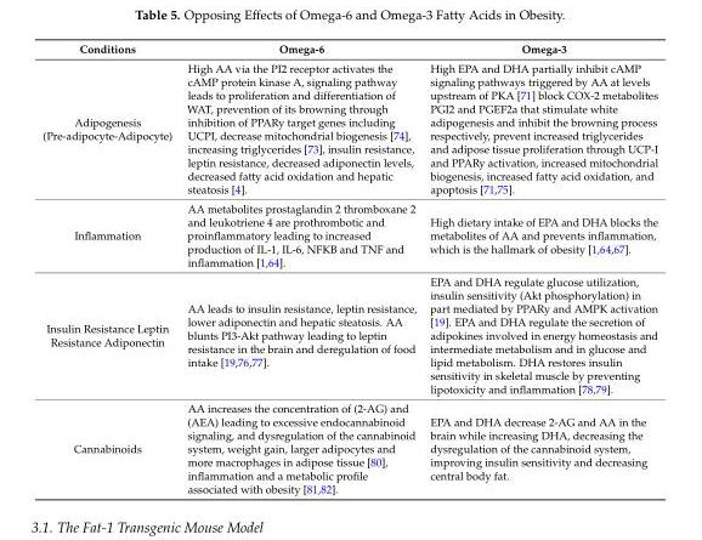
<table><thead><tr><td>Conditions</td><td>Omega-6</td><td>Omega-3</td></tr></thead><tbody><tr><td>Adipogenesis (Pre-adipocyte-Adipocyte)</td><td>High AA via the PI2 receptor activates the cAMP protein kinase A, signaling pathway leads to proliferation and differentiation of WAT, prevention of its browning through inhibition of PPARy target genes including UCPI, decrease mitochondrial biogenesis [74], increasing triglycerides [73], insulin resistance, leptin resistance, decreased adiponectin levels, decreased fatty acid oxidation and hepatic steatosis [4].</td><td>High EPA and DHA partially inhibit cAMP signaling pathways triggered by AA at levels upstream of PKA [71] block COX-2 metabolites PGI2 and PGEF2a that stimulate white adipogenesis and inhibit the browning process respectively, prevent increased triglycerides and adipose tissue proliferation through UCP-I and PPARy activation, increased mitochondrial biogenesis, increased fatty acid oxidation, and apoptosis [71,75].</td></tr><tr><td>Inflammation</td><td>AA metabolites prostaglandin 2 thromboxane 2 and leukotriene 4 are prothrombotic and proinflammatory leading to increased production of IL-1, IL-6, NFKB and TNF and inflammation [1,64].</td><td>High dietary intake of EPA and DHA blocks the metabolites of AA and prevents inflammation, which is the hallmark of obesity [1,64,67].</td></tr><tr><td>Insulin Resistance Leptin Resistance Adiponectin</td><td>AA leads to insulin resistance, leptin resistance, lower adiponectin and hepatic steatosis. AA blunts PI3-Akt pathway leading to leptin resistance in the brain and deregulation of food intake [19,76,77].</td><td>EPA and DHA regulate glucose utilization, insulin sensitivity (Akt phosphorylation) in part mediated by PPARy and AMPK activation [19]. EPA and DHA regulate the secretion of adipokines involved in energy homeostasis and intermediate metabolism and in glucose and lipid metabolism. DHA restores insulin sensitivity in skeletal muscle by preventing lipotoxicity and inflammation [78,79].</td></tr><tr><td>Cannabinoids</td><td>AA increases the concentration of (2-AG) and (AEA) leading to excessive endocannabinoid signaling, and dysregulation of the cannabinoid system, weight gain, larger adipocytes and more macrophages in adipose tissue [80], inflammation and a metabolic profile associated with obesity [81,82].</td><td>EPA and DHA decrease 2-AG and AA in the brain while increasing DHA, decreasing the dysregulation of the cannabinoid system, improving insulin sensitivity and decreasing central body fat.</td></tr></tbody></table>